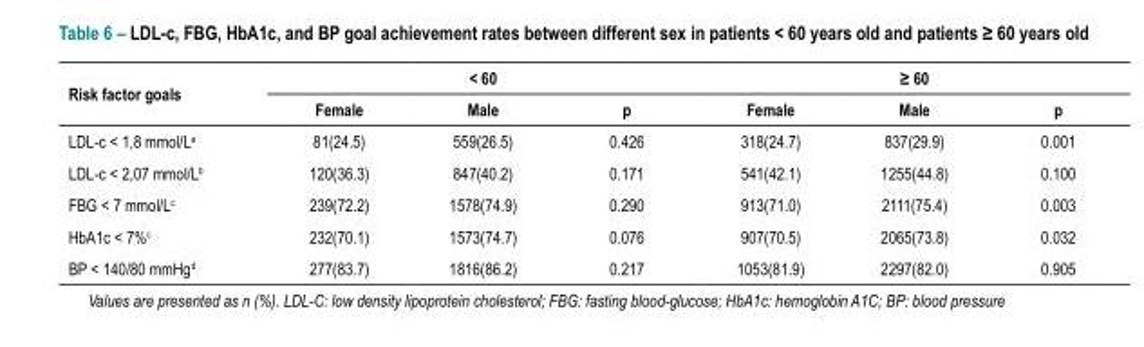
<table><thead><tr><td rowspan="2">Risk factor goals</td><td colspan="3">&lt; 60</td><td colspan="3">≥ 60</td></tr><tr><td>Female</td><td>Male</td><td>p</td><td>Female</td><td>Male</td><td>p</td></tr></thead><tbody><tr><td>LDL-c &lt; 1,8 mmol/La</td><td>81(24.5)</td><td>559(26.5)</td><td>0.426</td><td>318(24.7)</td><td>837(29.9)</td><td>0.001</td></tr><tr><td>LDL-c &lt; 2,07 mmol/Lb</td><td>120(36.3)</td><td>847(40.2)</td><td>0.171</td><td>541(42.1)</td><td>1255(44.8)</td><td>0.100</td></tr><tr><td>FBG &lt; 7 mmol/Lc</td><td>239(72.2)</td><td>1578(74.9)</td><td>0.290</td><td>913(71.0)</td><td>2111(75.4)</td><td>0.003</td></tr><tr><td>HbA1c &lt; 7%c</td><td>232(70.1)</td><td>1573(74.7)</td><td>0.076</td><td>907(70.5)</td><td>2065(73.8)</td><td>0.032</td></tr><tr><td>BP &lt; 140/80 mmHgd</td><td>277(83.7)</td><td>1816(86.2)</td><td>0.217</td><td>1053(81.9)</td><td>2297(82.0)</td><td>0.905</td></tr></tbody></table>